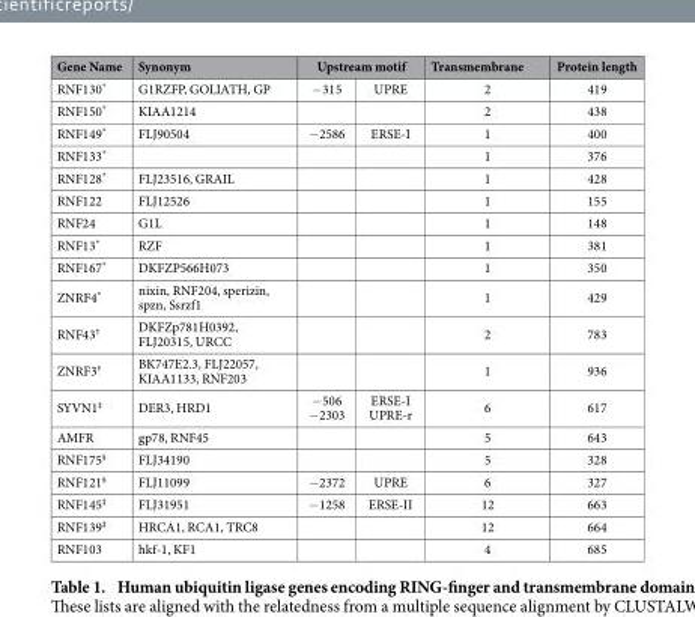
<table><thead><tr><td rowspan="2">Gene Name RNF130*</td><td rowspan="2">Synonym G1RZFP, GOLIATH, GP</td><td colspan="2">Upstream motif</td><td rowspan="2">Transmembrane 2</td><td rowspan="2">Protein length 419</td></tr><tr><td>− 315</td><td>UPRE</td></tr></thead><tbody><tr><td>RNF150*</td><td>KIAA1214</td><td></td><td></td><td>2</td><td>438</td></tr><tr><td>RNF149*</td><td>FLJ90504</td><td>− 2586</td><td>ERSE-I</td><td>1</td><td>400</td></tr><tr><td>RNF133*</td><td></td><td></td><td></td><td>1</td><td>376</td></tr><tr><td>RNF128*</td><td>FLJ23516, GRAIL</td><td></td><td></td><td>1</td><td>428</td></tr><tr><td>RNF122</td><td>FLJ12526</td><td></td><td></td><td>1</td><td>155</td></tr><tr><td>RNF24</td><td>G1L</td><td></td><td></td><td>1</td><td>148</td></tr><tr><td>RNF13*</td><td>RZF</td><td></td><td></td><td>1</td><td>381</td></tr><tr><td>RNF167*</td><td>DKFZP566H073</td><td></td><td></td><td>1</td><td>350</td></tr><tr><td>ZNRF4*</td><td>nixin, RNF204, sperizin, spzn, Ssrzf1</td><td></td><td></td><td>1</td><td>429</td></tr><tr><td>RNF43<sup>†</sup></td><td>DKFZp781H0392, FLJ20315, URCC</td><td></td><td></td><td>2</td><td>783</td></tr><tr><td>ZNRF3<sup>†</sup></td><td>BK747E2.3, FLJ22057, KIAA1133, RNF203</td><td></td><td></td><td>1</td><td>936</td></tr><tr><td>SYVN1<sup>‡</sup></td><td>DER3, HRD1</td><td>− 506 − 2303</td><td>ERSE-I UPRE-r</td><td>6</td><td>617</td></tr><tr><td>AMFR</td><td>gp78, RNF45</td><td></td><td></td><td>5</td><td>643</td></tr><tr><td>RNF175<sup>§</sup></td><td>FLJ34190</td><td></td><td></td><td>5</td><td>328</td></tr><tr><td>RNF121<sup>§</sup></td><td>FLJ11099</td><td>− 2372</td><td>UPRE</td><td>6</td><td>327</td></tr><tr><td>RNF145<sup>‡</sup></td><td>FLJ31951</td><td>− 1258</td><td>ERSE-II</td><td>12</td><td>663</td></tr><tr><td>RNF139<sup>‡</sup></td><td>HRCA1, RCA1, TRC8</td><td></td><td></td><td>12</td><td>664</td></tr><tr><td>RNF103</td><td>hkf-1, KF1</td><td></td><td></td><td>4</td><td>685</td></tr></tbody></table>